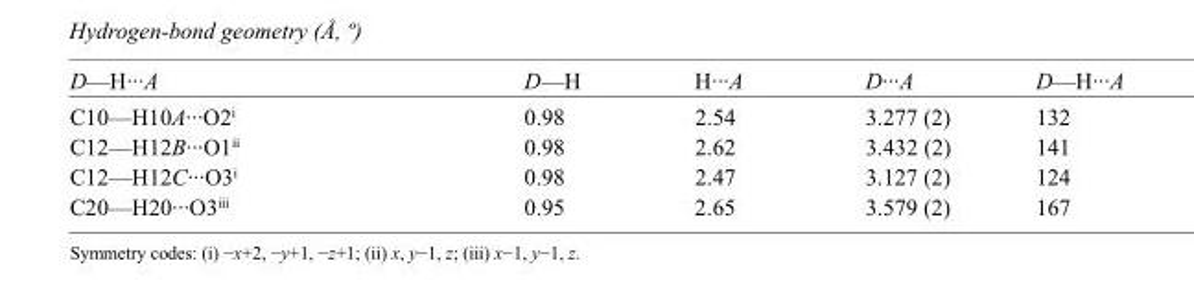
<table><tbody><tr><td>D—H···A</td><td>D—H</td><td>H···A</td><td>D···A</td><td>D—H···A</td></tr><tr><td>C10—H10A···O2<sup>i</sup></td><td>0.98</td><td>2.54</td><td>3.277 (2)</td><td>132</td></tr><tr><td>C12—H12B···O1<sup>ii</sup></td><td>0.98</td><td>2.62</td><td>3.432 (2)</td><td>141</td></tr><tr><td>C12—H12C···O3<sup>i</sup></td><td>0.98</td><td>2.47</td><td>3.127 (2)</td><td>124</td></tr><tr><td>C20—H20···O3<sup>iii</sup></td><td>0.95</td><td>2.65</td><td>3.579 (2)</td><td>167</td></tr></tbody></table>